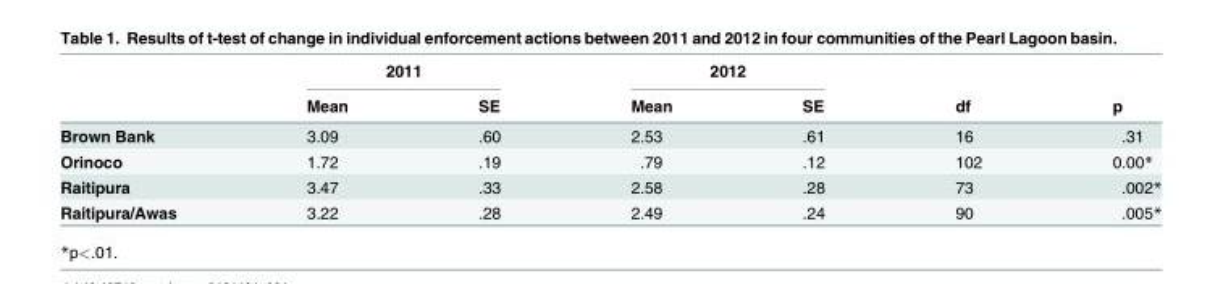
<table><thead><tr><td rowspan="2"></td><td colspan="2">2011</td><td colspan="2">2012</td><td rowspan="2">df</td><td rowspan="2">p</td></tr><tr><td>Mean</td><td>SE</td><td>Mean</td><td>SE</td></tr></thead><tbody><tr><td>Brown Bank</td><td>3.09</td><td>.60</td><td>2.53</td><td>.61</td><td>16</td><td>.31</td></tr><tr><td>Orinoco</td><td>1.72</td><td>.19</td><td>.79</td><td>.12</td><td>102</td><td>0.00*</td></tr><tr><td>Raitipura</td><td>3.47</td><td>.33</td><td>2.58</td><td>.28</td><td>73</td><td>.002*</td></tr><tr><td>Raitipura/Awas</td><td>3.22</td><td>.28</td><td>2.49</td><td>.24</td><td>90</td><td>.005*</td></tr></tbody></table>